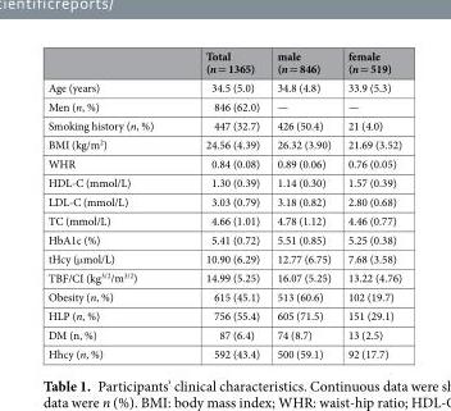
<table><thead><tr><td></td><td>Total (n = 1365)</td><td>male (n = 846)</td><td>female (n = 519)</td></tr></thead><tbody><tr><td>Age (years)</td><td>34.5 (5.0)</td><td>34.8 (4.8)</td><td>33.9 (5.3)</td></tr><tr><td>Men (n, %)</td><td>846 (62.0)</td><td>—</td><td>—</td></tr><tr><td>Smoking history (n, %)</td><td>447 (32.7)</td><td>426 (50.4)</td><td>21 (4.0)</td></tr><tr><td>BMI (kg/m<sup>2</sup>)</td><td>24.56 (4.39)</td><td>26.32 (3.90)</td><td>21.69 (3.52)</td></tr><tr><td>WHR</td><td>0.84 (0.08)</td><td>0.89 (0.06)</td><td>0.76 (0.05)</td></tr><tr><td>HDL-C (mmol/L)</td><td>1.30 (0.39)</td><td>1.14 (0.30)</td><td>1.57 (0.39)</td></tr><tr><td>LDL-C (mmol/L)</td><td>3.03 (0.79)</td><td>3.18 (0.82)</td><td>2.80 (0.68)</td></tr><tr><td>TC (mmol/L)</td><td>4.66 (1.01)</td><td>4.78 (1.12)</td><td>4.46 (0.77)</td></tr><tr><td>HbA1c (%)</td><td>5.41 (0.72)</td><td>5.51 (0.85)</td><td>5.25 (0.38)</td></tr><tr><td>tHcy (μmol/L)</td><td>10.90 (6.29)</td><td>12.77 (6.75)</td><td>7.68 (3.58)</td></tr><tr><td>TBF/CI (kg<sup>3/2</sup>/m<sup>3/2</sup>)</td><td>14.99 (5.25)</td><td>16.07 (5.25)</td><td>13.22 (4.76)</td></tr><tr><td>Obesity (n, %)</td><td>615 (45.1)</td><td>513 (60.6)</td><td>102 (19.7)</td></tr><tr><td>HLP (n, %)</td><td>756 (55.4)</td><td>605 (71.5)</td><td>151 (29.1)</td></tr><tr><td>DM (n, %)</td><td>87 (6.4)</td><td>74 (8.7)</td><td>13 (2.5)</td></tr><tr><td>Hhcy (n, %)</td><td>592 (43.4)</td><td>500 (59.1)</td><td>92 (17.7)</td></tr></tbody></table>